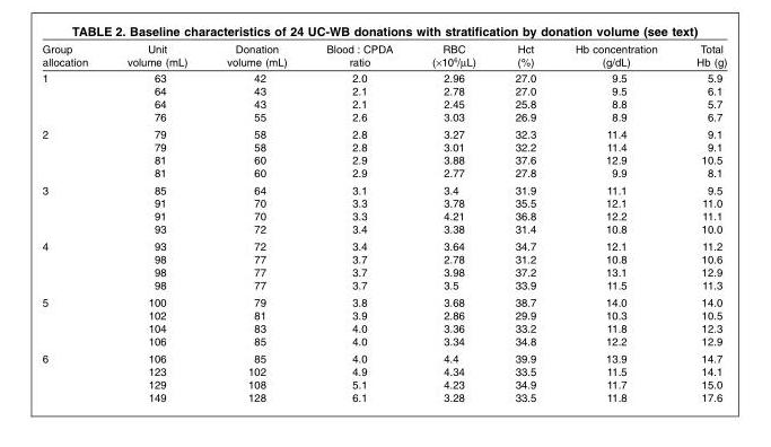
<table><thead><tr><td>Group allocation</td><td>Unit volume (mL)</td><td>Donation volume (mL)</td><td>Blood : CPDA ratio</td><td>RBC (×10<sup>6</sup>/µL)</td><td>Hct (%)</td><td>Hb concentration (g/dL)</td><td>Total Hb (g)</td></tr></thead><tbody><tr><td rowspan="4">1</td><td>63</td><td>42</td><td>2.0</td><td>2.96</td><td>27.0</td><td>9.5</td><td>5.9</td></tr><tr><td>64</td><td>43</td><td>2.1</td><td>2.78</td><td>27.0</td><td>9.5</td><td>6.1</td></tr><tr><td>64</td><td>43</td><td>2.1</td><td>2.45</td><td>25.8</td><td>8.8</td><td>5.7</td></tr><tr><td>76</td><td>55</td><td>2.6</td><td>3.03</td><td>26.9</td><td>8.9</td><td>6.7</td></tr><tr><td rowspan="4">2</td><td>79</td><td>58</td><td>2.8</td><td>3.27</td><td>32.3</td><td>11.4</td><td>9.1</td></tr><tr><td>79</td><td>58</td><td>2.8</td><td>3.01</td><td>32.2</td><td>11.4</td><td>9.1</td></tr><tr><td>81</td><td>60</td><td>2.9</td><td>3.88</td><td>37.6</td><td>12.9</td><td>10.5</td></tr><tr><td>81</td><td>60</td><td>2.9</td><td>2.77</td><td>27.8</td><td>9.9</td><td>8.1</td></tr><tr><td rowspan="4">3</td><td>85</td><td>64</td><td>3.1</td><td>3.4</td><td>31.9</td><td>11.1</td><td>9.5</td></tr><tr><td>91</td><td>70</td><td>3.3</td><td>3.78</td><td>35.5</td><td>12.1</td><td>11.0</td></tr><tr><td>91</td><td>70</td><td>3.3</td><td>4.21</td><td>36.8</td><td>12.2</td><td>11.1</td></tr><tr><td>93</td><td>72</td><td>3.4</td><td>3.38</td><td>31.4</td><td>10.8</td><td>10.0</td></tr><tr><td rowspan="4">4</td><td>93</td><td>72</td><td>3.4</td><td>3.64</td><td>34.7</td><td>12.1</td><td>11.2</td></tr><tr><td>98</td><td>77</td><td>3.7</td><td>2.78</td><td>31.2</td><td>10.8</td><td>10.6</td></tr><tr><td>98</td><td>77</td><td>3.7</td><td>3.98</td><td>37.2</td><td>13.1</td><td>12.9</td></tr><tr><td>98</td><td>77</td><td>3.7</td><td>3.5</td><td>33.9</td><td>11.5</td><td>11.3</td></tr><tr><td rowspan="4">5</td><td>100</td><td>79</td><td>3.8</td><td>3.68</td><td>38.7</td><td>14.0</td><td>14.0</td></tr><tr><td>102</td><td>81</td><td>3.9</td><td>2.86</td><td>29.9</td><td>10.3</td><td>10.5</td></tr><tr><td>104</td><td>83</td><td>4.0</td><td>3.36</td><td>33.2</td><td>11.8</td><td>12.3</td></tr><tr><td>106</td><td>85</td><td>4.0</td><td>3.34</td><td>34.8</td><td>12.2</td><td>12.9</td></tr><tr><td rowspan="4">6</td><td>106</td><td>85</td><td>4.0</td><td>4.4</td><td>39.9</td><td>13.9</td><td>14.7</td></tr><tr><td>123</td><td>102</td><td>4.9</td><td>4.34</td><td>33.5</td><td>11.5</td><td>14.1</td></tr><tr><td>129</td><td>108</td><td>5.1</td><td>4.23</td><td>34.9</td><td>11.7</td><td>15.0</td></tr><tr><td>149</td><td>128</td><td>6.1</td><td>3.28</td><td>33.5</td><td>11.8</td><td>17.6</td></tr></tbody></table>